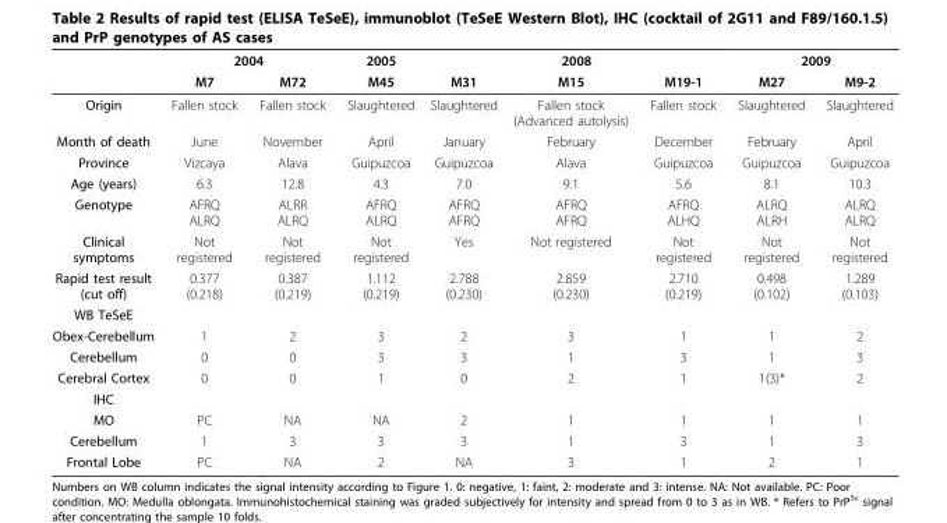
<table><thead><tr><td rowspan="2"></td><td colspan="2">2004</td><td rowspan="2">2005 M45</td><td colspan="3">2008</td><td colspan="2">2009</td></tr><tr><td>M7</td><td>M72</td><td>M31</td><td>M15</td><td>M19-1</td><td>M27</td><td>M9-2</td></tr></thead><tbody><tr><td>Origin</td><td>Fallen stock</td><td>Fallen stock</td><td>Slaughtered</td><td>Slaughtered</td><td>Fallen stock (Advanced autolysis)</td><td>Fallen stock</td><td>Slaughtered</td><td>Slaughtered</td></tr><tr><td>Month of death</td><td>June</td><td>November</td><td>April</td><td>January</td><td>February</td><td>December</td><td>February</td><td>April</td></tr><tr><td>Province</td><td>Vizcaya</td><td>Alava</td><td>Guipuzcoa</td><td>Guipuzcoa</td><td>Alava</td><td>Guipuzcoa</td><td>Guipuzcoa</td><td>Guipuzcoa</td></tr><tr><td>Age (years)</td><td>6.3</td><td>12.8</td><td>4.3</td><td>7.0</td><td>9.1</td><td>5.6</td><td>8.1</td><td>10.3</td></tr><tr><td>Genotype</td><td>AFRQ ALRQ</td><td>ALRR ALRQ</td><td>AFRQ ALRQ</td><td>AFRQ AFRQ</td><td>AFRQ AFRQ</td><td>AFRQ ALHQ</td><td>ALRQ ALRH</td><td>ALRQ ALRQ</td></tr><tr><td>Clinical symptoms</td><td>Not registered</td><td>Not registered</td><td>Not registered</td><td>Yes</td><td>Not registered</td><td>Not registered</td><td>Not registered</td><td>Not registered</td></tr><tr><td>Rapid test result (cut off)</td><td>0.377 (0.218)</td><td>0.387 (0.219)</td><td>1.112 (0.219)</td><td>2.788 (0.230)</td><td>2.859 (0.230)</td><td>2.710 (0.219)</td><td>0.498 (0.102)</td><td>1.289 (0.103)</td></tr><tr><td colspan="9">WB TeSeE</td></tr><tr><td>Obex-Cerebellum</td><td>1</td><td>2</td><td>3</td><td>2</td><td>3</td><td>1</td><td>1</td><td>2</td></tr><tr><td>Cerebellum</td><td>0</td><td>0</td><td>3</td><td>3</td><td>1</td><td>3</td><td>1</td><td>3</td></tr><tr><td>Cerebral Cortex</td><td>0</td><td>0</td><td>1</td><td>0</td><td>2</td><td>1</td><td>1(3)*</td><td>2</td></tr><tr><td colspan="9">IHC</td></tr><tr><td>MO</td><td>PC</td><td>NA</td><td>NA</td><td>2</td><td>1</td><td>1</td><td>1</td><td>1</td></tr><tr><td>Cerebellum</td><td>1</td><td>3</td><td>3</td><td>3</td><td>1</td><td>3</td><td>1</td><td>3</td></tr><tr><td>Frontal Lobe</td><td>PC</td><td>NA</td><td>2</td><td>NA</td><td>3</td><td>1</td><td>2</td><td>1</td></tr></tbody></table>